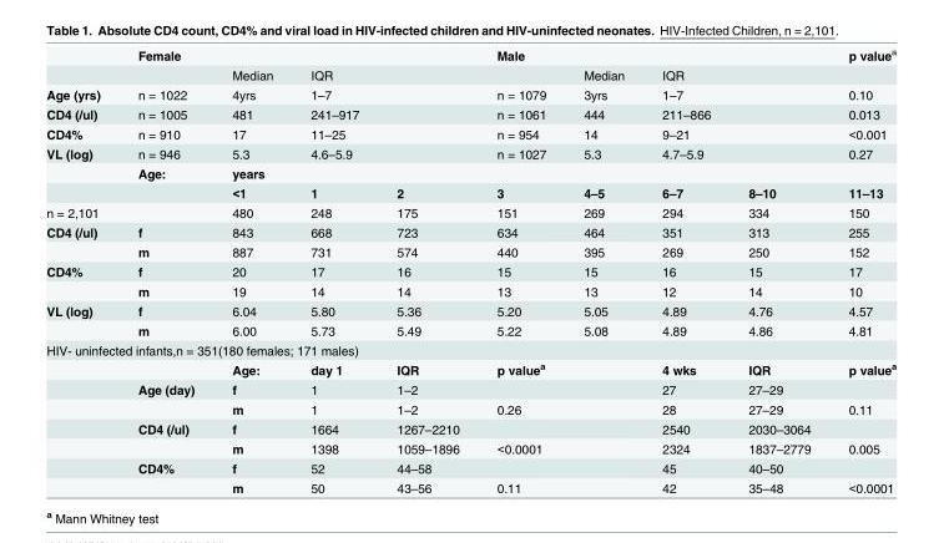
<table><thead><tr><td></td><td>Female</td><td></td><td></td><td></td><td>Male</td><td></td><td></td><td></td><td>p value<sup>a</sup></td></tr></thead><tbody><tr><td></td><td></td><td>Median</td><td>IQR</td><td></td><td></td><td>Median</td><td>IQR</td><td></td><td></td></tr><tr><td>Age (yrs)</td><td>n = 1022</td><td>4yrs</td><td>1–7</td><td></td><td>n = 1079</td><td>3yrs</td><td>1–7</td><td></td><td>0.10</td></tr><tr><td>CD4 (/ul)</td><td>n = 1005</td><td>481</td><td>241–917</td><td></td><td>n = 1061</td><td>444</td><td>211–866</td><td></td><td>0.013</td></tr><tr><td>CD4%</td><td>n = 910</td><td>17</td><td>11–25</td><td></td><td>n = 954</td><td>14</td><td>9–21</td><td></td><td>&lt;0.001</td></tr><tr><td rowspan="3">VL (log)</td><td>n = 946</td><td>5.3</td><td>4.6–5.9</td><td></td><td>n = 1027</td><td>5.3</td><td>4.7–5.9</td><td></td><td>0.27</td></tr><tr><td>Age:</td><td>years</td><td></td><td></td><td></td><td></td><td></td><td></td><td></td></tr><tr><td></td><td>&lt;1</td><td>1</td><td>2</td><td>3</td><td>4–5</td><td>6–7</td><td>8–10</td><td>11–13</td></tr><tr><td>n = 2,101</td><td></td><td>480</td><td>248</td><td>175</td><td>151</td><td>269</td><td>294</td><td>334</td><td>150</td></tr><tr><td rowspan="2">CD4 (/ul)</td><td>f</td><td>843</td><td>668</td><td>723</td><td>634</td><td>464</td><td>351</td><td>313</td><td>255</td></tr><tr><td>m</td><td>887</td><td>731</td><td>574</td><td>440</td><td>395</td><td>269</td><td>250</td><td>152</td></tr><tr><td rowspan="2">CD4%</td><td>f</td><td>20</td><td>17</td><td>16</td><td>15</td><td>15</td><td>16</td><td>15</td><td>17</td></tr><tr><td>m</td><td>19</td><td>14</td><td>14</td><td>13</td><td>13</td><td>12</td><td>14</td><td>10</td></tr><tr><td rowspan="2">VL (log)</td><td>f</td><td>6.04</td><td>5.80</td><td>5.36</td><td>5.20</td><td>5.05</td><td>4.89</td><td>4.76</td><td>4.57</td></tr><tr><td>m</td><td>6.00</td><td>5.73</td><td>5.49</td><td>5.22</td><td>5.08</td><td>4.89</td><td>4.86</td><td>4.81</td></tr><tr><td colspan="10">HIV- uninfected infants,n = 351(180 females; 171 males)</td></tr><tr><td></td><td></td><td>Age:</td><td>day 1</td><td>IQR</td><td>p value<sup>a</sup></td><td></td><td>4 wks</td><td>IQR</td><td>p value<sup>a</sup></td></tr><tr><td></td><td>Age (day)</td><td>f</td><td>1</td><td>1–2</td><td></td><td></td><td>27</td><td>27–29</td><td></td></tr><tr><td></td><td></td><td>m</td><td>1</td><td>1–2</td><td>0.26</td><td></td><td>28</td><td>27–29</td><td>0.11</td></tr><tr><td></td><td>CD4 (/ul)</td><td>f</td><td>1664</td><td>1267–2210</td><td></td><td></td><td>2540</td><td>2030–3064</td><td></td></tr><tr><td></td><td></td><td>m</td><td>1398</td><td>1059–1896</td><td>&lt;0.0001</td><td></td><td>2324</td><td>1837–2779</td><td>0.005</td></tr><tr><td></td><td>CD4%</td><td>f</td><td>52</td><td>44–58</td><td></td><td></td><td>45</td><td>40–50</td><td></td></tr><tr><td></td><td></td><td>m</td><td>50</td><td>43–56</td><td>0.11</td><td></td><td>42</td><td>35–48</td><td>&lt;0.0001</td></tr></tbody></table>